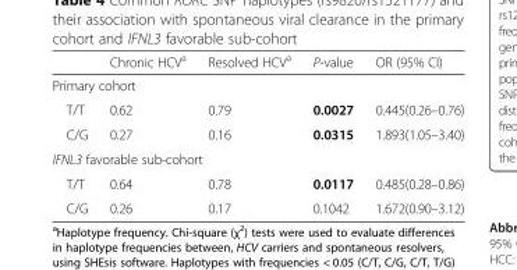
<table><thead><tr><td></td><td>Chronic HCV<sup>a</sup></td><td>Resolved HCV<sup>a</sup></td><td>P-value</td><td>OR (95% CI)</td></tr></thead><tbody><tr><td colspan="5">Primary cohort</td></tr><tr><td>T/T</td><td>0.62</td><td>0.79</td><td>0.0027</td><td>0.445(0.26–0.76)</td></tr><tr><td>C/G</td><td>0.27</td><td>0.16</td><td>0.0315</td><td>1.893(1.05–3.40)</td></tr><tr><td colspan="5">IFNL3 favorable sub-cohort</td></tr><tr><td>T/T</td><td>0.64</td><td>0.78</td><td>0.0117</td><td>0.485(0.28–0.86)</td></tr><tr><td>C/G</td><td>0.26</td><td>0.17</td><td>0.1042</td><td>1.672(0.90–3.12)</td></tr></tbody></table>